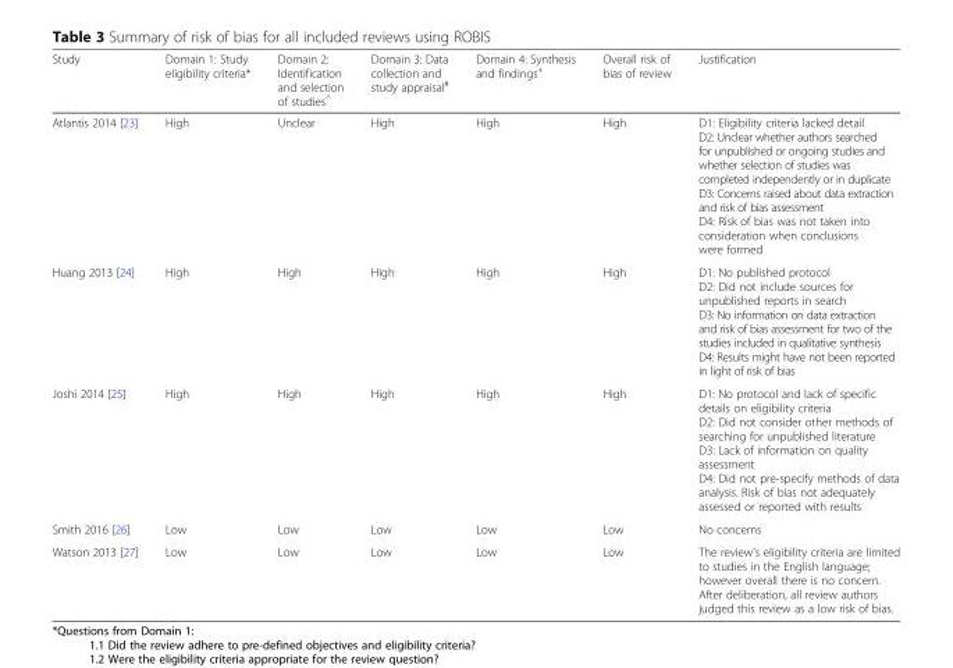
<table><thead><tr><td>Study</td><td>Domain 1: Study eligibility criteria*</td><td>Domain 2: Identification and selection of studies<sup>^</sup></td><td>Domain 3: Data collection and study appraisal<sup>#</sup></td><td>Domain 4: Synthesis and findings<sup>+</sup></td><td>Overall risk of bias of review</td><td>Justification</td></tr></thead><tbody><tr><td>Atlantis 2014 [23]</td><td>High</td><td>Unclear</td><td>High</td><td>High</td><td>High</td><td>D1: Eligibility criteria lacked detail D2: Unclear whether authors searched for unpublished or ongoing studies and whether selection of studies was completed independently or in duplicate D3: Concerns raised about data extraction and risk of bias assessment D4: Risk of bias was not taken into consideration when conclusions were formed</td></tr><tr><td>Huang 2013 [24]</td><td>High</td><td>High</td><td>High</td><td>High</td><td>High</td><td>D1: No published protocol D2: Did not include sources for unpublished reports in search D3: No information on data extraction and risk of bias assessment for two of the studies included in qualitative synthesis D4: Results might have not been reported in light of risk of bias</td></tr><tr><td>Joshi 2014 [25]</td><td>High</td><td>High</td><td>High</td><td>High</td><td>High</td><td>D1: No protocol and lack of specific details on eligibility criteria D2: Did not consider other methods of searching for unpublished literature D3: Lack of information on quality assessment D4: Did not pre-specify methods of data analysis. Risk of bias not adequately assessed or reported with results</td></tr><tr><td>Smith 2016 [26]</td><td>Low</td><td>Low</td><td>Low</td><td>Low</td><td>Low</td><td>No concerns</td></tr><tr><td>Watson 2013 [27]</td><td>Low</td><td>Low</td><td>Low</td><td>Low</td><td>Low</td><td>The review’s eligibility criteria are limited to studies in the English language; however overall there is no concern. After deliberation, all review authors judged this review as a low risk of bias.</td></tr></tbody></table>